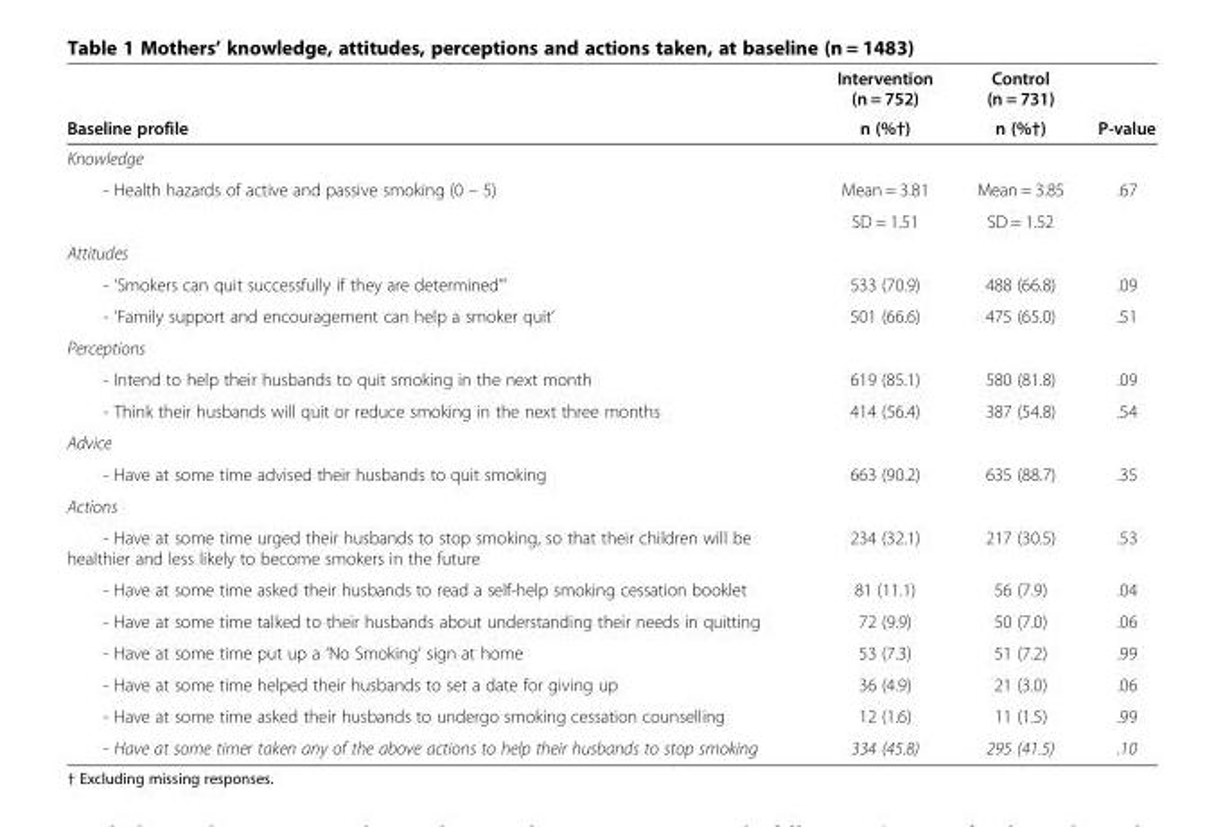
<table><thead><tr><td rowspan="2">Baseline profile</td><td rowspan="2">Intervention (n = 752) n (%†)</td><td rowspan="2">Control (n = 731) n (%†)</td><td rowspan="2">P-value</td></tr><tr></tr></thead><tbody><tr><td colspan="4">Knowledge</td></tr><tr><td rowspan="2">- Health hazards of active and passive smoking (0 – 5)</td><td>Mean = 3.81</td><td>Mean = 3.85</td><td rowspan="2">.67</td></tr><tr><td>SD = 1.51</td><td>SD = 1.52</td></tr><tr><td colspan="4">Attitudes</td></tr><tr><td>- ‘Smokers can quit successfully if they are determined”’</td><td>533 (70.9)</td><td>488 (66.8)</td><td>.09</td></tr><tr><td>- ‘Family support and encouragement can help a smoker quit’</td><td>501 (66.6)</td><td>475 (65.0)</td><td>.51</td></tr><tr><td colspan="4">Perceptions</td></tr><tr><td>- Intend to help their husbands to quit smoking in the next month</td><td>619 (85.1)</td><td>580 (81.8)</td><td>.09</td></tr><tr><td>- Think their husbands will quit or reduce smoking in the next three months</td><td>414 (56.4)</td><td>387 (54.8)</td><td>.54</td></tr><tr><td colspan="4">Advice</td></tr><tr><td>- Have at some time advised their husbands to quit smoking</td><td>663 (90.2)</td><td>635 (88.7)</td><td>.35</td></tr><tr><td colspan="4">Actions</td></tr><tr><td>- Have at some time urged their husbands to stop smoking, so that their children will be healthier and less likely to become smokers in the future</td><td>234 (32.1)</td><td>217 (30.5)</td><td>.53</td></tr><tr><td>- Have at some time asked their husbands to read a self-help smoking cessation booklet</td><td>81 (11.1)</td><td>56 (7.9)</td><td>.04</td></tr><tr><td>- Have at some time talked to their husbands about understanding their needs in quitting</td><td>72 (9.9)</td><td>50 (7.0)</td><td>.06</td></tr><tr><td>- Have at some time put up a ‘No Smoking’ sign at home</td><td>53 (7.3)</td><td>51 (7.2)</td><td>.99</td></tr><tr><td>- Have at some time helped their husbands to set a date for giving up</td><td>36 (4.9)</td><td>21 (3.0)</td><td>.06</td></tr><tr><td>- Have at some time asked their husbands to undergo smoking cessation counselling</td><td>12 (1.6)</td><td>11 (1.5)</td><td>.99</td></tr><tr><td>- Have at some timer taken any of the above actions to help their husbands to stop smoking</td><td>334 (45.8)</td><td>295 (41.5)</td><td>.10</td></tr></tbody></table>